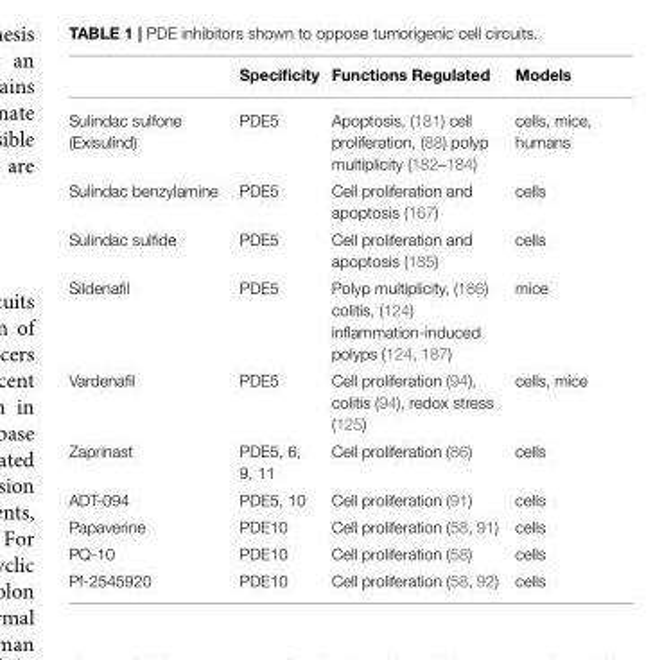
<table><thead><tr><td></td><td>Specificity</td><td>Functions Regulated</td><td>Models</td></tr></thead><tbody><tr><td>Sulindac sulfone (Exisulind)</td><td>PDE5</td><td>Apoptosis, (181) cell proliferation, (88) polyp multiplicity (182–184)</td><td>cells, mice, humans</td></tr><tr><td>Sulindac benzylamine</td><td>PDE5</td><td>Cell proliferation and apoptosis (167)</td><td>cells</td></tr><tr><td>Sulindac sulfide</td><td>PDE5</td><td>Cell proliferation and apoptosis (185)</td><td>cells</td></tr><tr><td>Sildenafil</td><td>PDE5</td><td>Polyp multiplicity, (186) colitis, (124) inflammation-induced polyps (124, 187)</td><td>mice</td></tr><tr><td>Vardenafil</td><td>PDE5</td><td>Cell proliferation (94), colitis (94), redox stress (125)</td><td>cells, mice</td></tr><tr><td>Zaprinast</td><td>PDE5, 6, 9, 11</td><td>Cell proliferation (86)</td><td>cells</td></tr><tr><td>ADT-094</td><td>PDE5, 10</td><td>Cell proliferation (91)</td><td>cells</td></tr><tr><td>Papaverine</td><td>PDE10</td><td>Cell proliferation (58, 91)</td><td>cells</td></tr><tr><td>PQ-10</td><td>PDE10</td><td>Cell proliferation (58)</td><td>cells</td></tr><tr><td>Pf-2545920</td><td>PDE10</td><td>Cell proliferation (58, 92)</td><td>cells</td></tr></tbody></table>